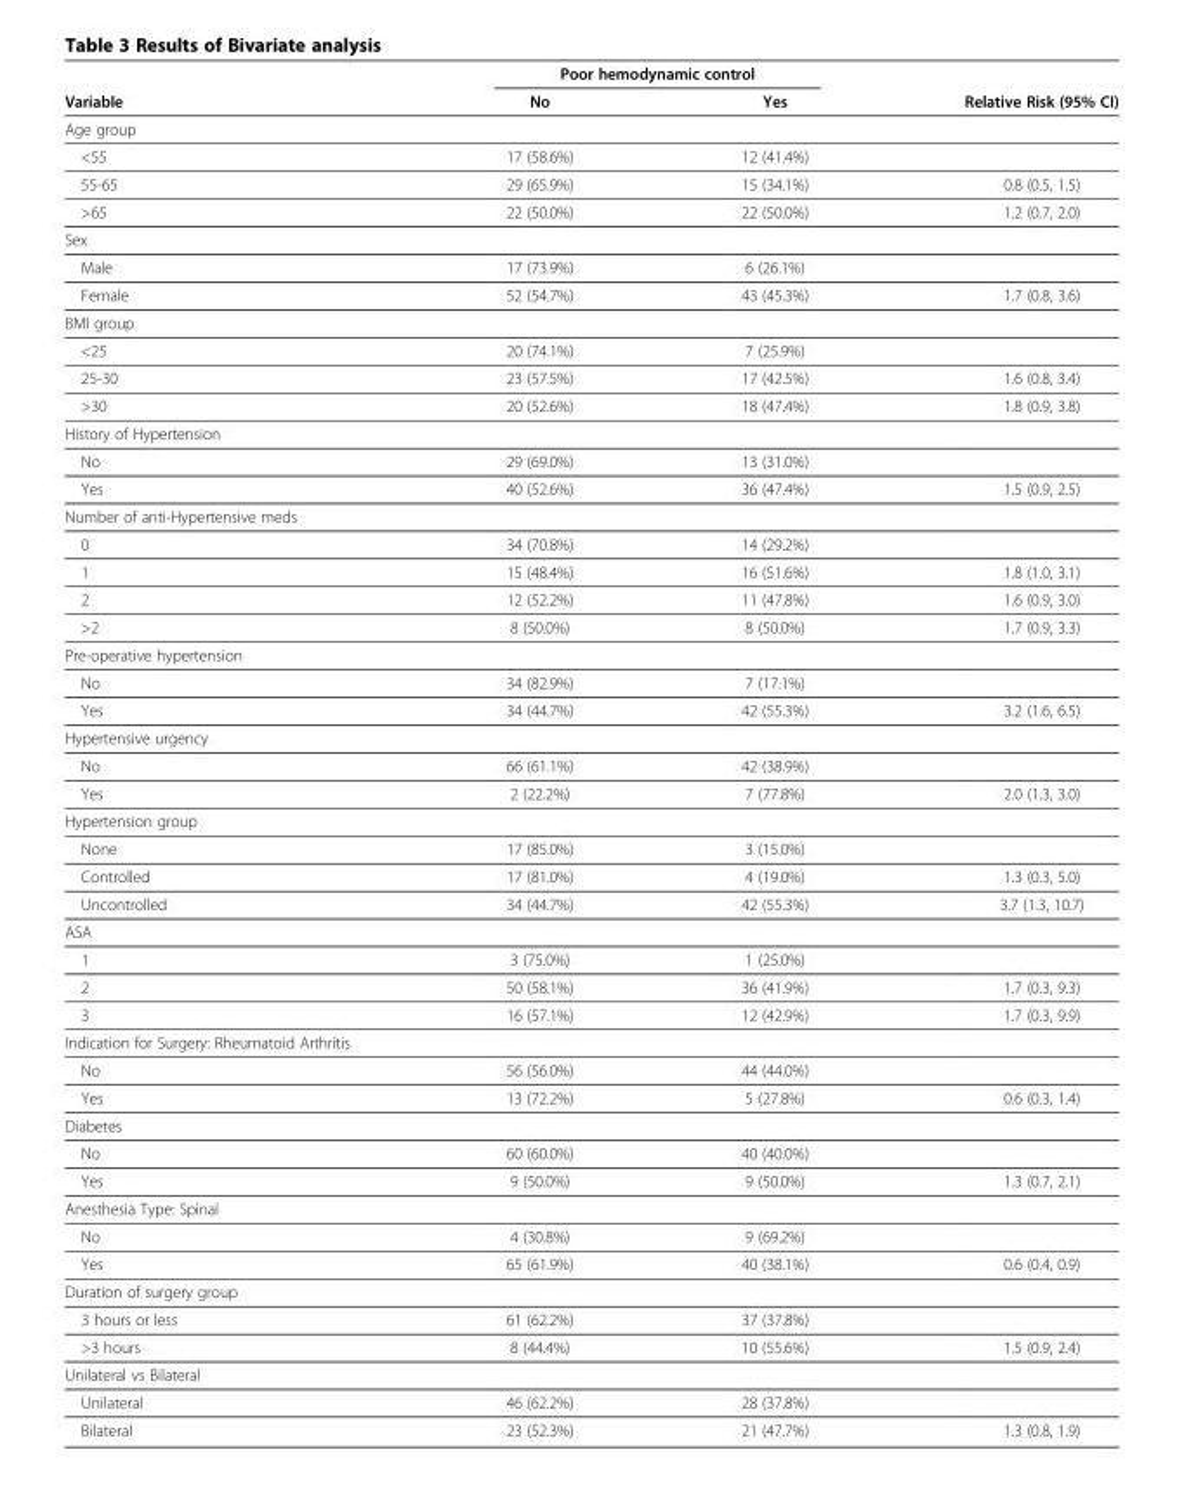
<table><thead><tr><td rowspan="2">Variable</td><td colspan="2">Poor hemodynamic control</td><td rowspan="2">Relative Risk (95% CI)</td></tr><tr><td>No</td><td>Yes</td></tr></thead><tbody><tr><td colspan="4">Age group</td></tr><tr><td>&lt;55</td><td>17 (58.6%)</td><td>12 (41.4%)</td><td></td></tr><tr><td>55-65</td><td>29 (65.9%)</td><td>15 (34.1%)</td><td>0.8 (0.5, 1.5)</td></tr><tr><td>&gt;65</td><td>22 (50.0%)</td><td>22 (50.0%)</td><td>1.2 (0.7, 2.0)</td></tr><tr><td colspan="4">Sex</td></tr><tr><td>Male</td><td>17 (73.9%)</td><td>6 (26.1%)</td><td></td></tr><tr><td>Female</td><td>52 (54.7%)</td><td>43 (45.3%)</td><td>1.7 (0.8, 3.6)</td></tr><tr><td colspan="4">BMI group</td></tr><tr><td>&lt;25</td><td>20 (74.1%)</td><td>7 (25.9%)</td><td></td></tr><tr><td>25-30</td><td>23 (57.5%)</td><td>17 (42.5%)</td><td>1.6 (0.8, 3.4)</td></tr><tr><td>&gt;30</td><td>20 (52.6%)</td><td>18 (47.4%)</td><td>1.8 (0.9, 3.8)</td></tr><tr><td colspan="4">History of Hypertension</td></tr><tr><td>No</td><td>29 (69.0%)</td><td>13 (31.0%)</td><td></td></tr><tr><td>Yes</td><td>40 (52.6%)</td><td>36 (47.4%)</td><td>1.5 (0.9, 2.5)</td></tr><tr><td colspan="4">Number of anti-Hypertensive meds</td></tr><tr><td>0</td><td>34 (70.8%)</td><td>14 (29.2%)</td><td></td></tr><tr><td>1</td><td>15 (48.4%)</td><td>16 (51.6%)</td><td>1.8 (1.0, 3.1)</td></tr><tr><td>2</td><td>12 (52.2%)</td><td>11 (47.8%)</td><td>1.6 (0.9, 3.0)</td></tr><tr><td>&gt;2</td><td>8 (50.0%)</td><td>8 (50.0%)</td><td>1.7 (0.9, 3.3)</td></tr><tr><td colspan="4">Pre-operative hypertension</td></tr><tr><td>No</td><td>34 (82.9%)</td><td>7 (17.1%)</td><td></td></tr><tr><td>Yes</td><td>34 (44.7%)</td><td>42 (55.3%)</td><td>3.2 (1.6, 6.5)</td></tr><tr><td colspan="4">Hypertensive urgency</td></tr><tr><td>No</td><td>66 (61.1%)</td><td>42 (38.9%)</td><td></td></tr><tr><td>Yes</td><td>2 (22.2%)</td><td>7 (77.8%)</td><td>2.0 (1.3, 3.0)</td></tr><tr><td colspan="4">Hypertension group</td></tr><tr><td>None</td><td>17 (85.0%)</td><td>3 (15.0%)</td><td></td></tr><tr><td>Controlled</td><td>17 (81.0%)</td><td>4 (19.0%)</td><td>1.3 (0.3, 5.0)</td></tr><tr><td>Uncontrolled</td><td>34 (44.7%)</td><td>42 (55.3%)</td><td>3.7 (1.3, 10.7)</td></tr><tr><td colspan="4">ASA</td></tr><tr><td>1</td><td>3 (75.0%)</td><td>1 (25.0%)</td><td></td></tr><tr><td>2</td><td>50 (58.1%)</td><td>36 (41.9%)</td><td>1.7 (0.3, 9.3)</td></tr><tr><td>3</td><td>16 (57.1%)</td><td>12 (42.9%)</td><td>1.7 (0.3, 9.9)</td></tr><tr><td colspan="4">Indication for Surgery: Rheumatoid Arthritis</td></tr><tr><td>No</td><td>56 (56.0%)</td><td>44 (44.0%)</td><td></td></tr><tr><td>Yes</td><td>13 (72.2%)</td><td>5 (27.8%)</td><td>0.6 (0.3, 1.4)</td></tr><tr><td colspan="4">Diabetes</td></tr><tr><td>No</td><td>60 (60.0%)</td><td>40 (40.0%)</td><td></td></tr><tr><td>Yes</td><td>9 (50.0%)</td><td>9 (50.0%)</td><td>1.3 (0.7, 2.1)</td></tr><tr><td colspan="4">Anesthesia Type: Spinal</td></tr><tr><td>No</td><td>4 (30.8%)</td><td>9 (69.2%)</td><td></td></tr><tr><td>Yes</td><td>65 (61.9%)</td><td>40 (38.1%)</td><td>0.6 (0.4, 0.9)</td></tr><tr><td colspan="4">Duration of surgery group</td></tr><tr><td>3 hours or less</td><td>61 (62.2%)</td><td>37 (37.8%)</td><td></td></tr><tr><td>&gt;3 hours</td><td>8 (44.4%)</td><td>10 (55.6%)</td><td>1.5 (0.9, 2.4)</td></tr><tr><td colspan="4">Unilateral vs Bilateral</td></tr><tr><td>Unilateral</td><td>46 (62.2%)</td><td>28 (37.8%)</td><td></td></tr><tr><td>Bilateral</td><td>23 (52.3%)</td><td>21 (47.7%)</td><td>1.3 (0.8, 1.9)</td></tr></tbody></table>